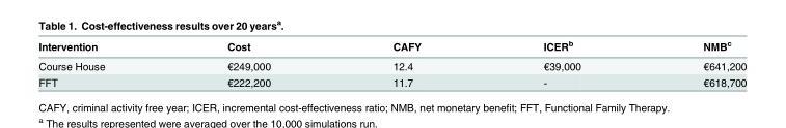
<table><thead><tr><td>Intervention</td><td>Cost</td><td>CAFY</td><td>ICER<sup>b</sup></td><td>NMB<sup>c</sup></td></tr></thead><tbody><tr><td>Course House</td><td>€249,000</td><td>12.4</td><td>€39,000</td><td>€641,200</td></tr><tr><td>FFT</td><td>€222,200</td><td>11.7</td><td>-</td><td>€618,700</td></tr></tbody></table>